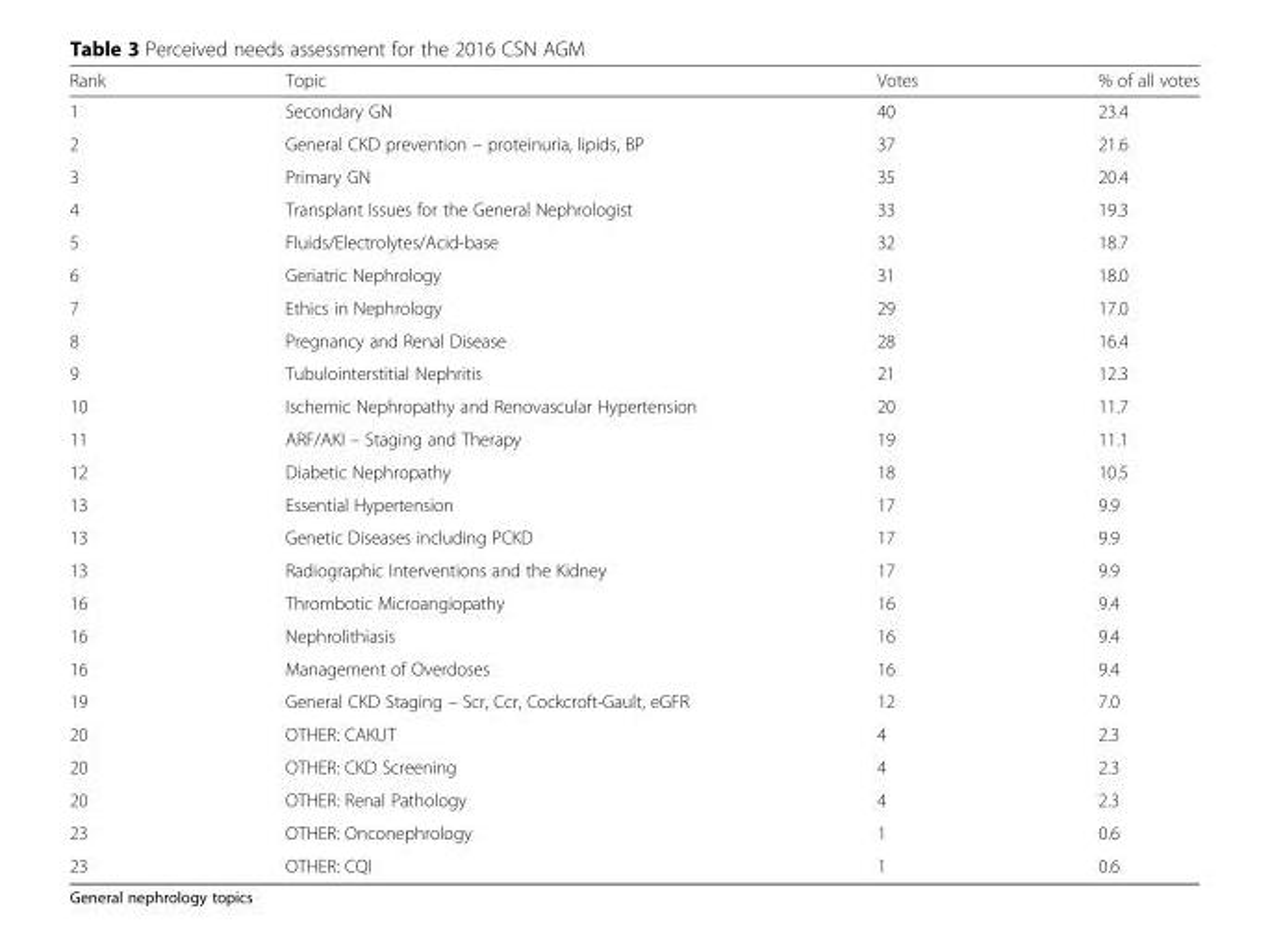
<table><thead><tr><td>Rank</td><td>Topic</td><td>Votes</td><td>% of all votes</td></tr></thead><tbody><tr><td>1</td><td>Secondary GN</td><td>40</td><td>23.4</td></tr><tr><td>2</td><td>General CKD prevention – proteinuria, lipids, BP</td><td>37</td><td>21.6</td></tr><tr><td>3</td><td>Primary GN</td><td>35</td><td>20.4</td></tr><tr><td>4</td><td>Transplant Issues for the General Nephrologist</td><td>33</td><td>19.3</td></tr><tr><td>5</td><td>Fluids/Electrolytes/Acid-base</td><td>32</td><td>18.7</td></tr><tr><td>6</td><td>Geriatric Nephrology</td><td>31</td><td>18.0</td></tr><tr><td>7</td><td>Ethics in Nephrology</td><td>29</td><td>17.0</td></tr><tr><td>8</td><td>Pregnancy and Renal Disease</td><td>28</td><td>16.4</td></tr><tr><td>9</td><td>Tubulointerstitial Nephritis</td><td>21</td><td>12.3</td></tr><tr><td>10</td><td>Ischemic Nephropathy and Renovascular Hypertension</td><td>20</td><td>11.7</td></tr><tr><td>11</td><td>ARF/AKI – Staging and Therapy</td><td>19</td><td>11.1</td></tr><tr><td>12</td><td>Diabetic Nephropathy</td><td>18</td><td>10.5</td></tr><tr><td>13</td><td>Essential Hypertension</td><td>17</td><td>9.9</td></tr><tr><td>13</td><td>Genetic Diseases including PCKD</td><td>17</td><td>9.9</td></tr><tr><td>13</td><td>Radiographic Interventions and the Kidney</td><td>17</td><td>9.9</td></tr><tr><td>16</td><td>Thrombotic Microangiopathy</td><td>16</td><td>9.4</td></tr><tr><td>16</td><td>Nephrolithiasis</td><td>16</td><td>9.4</td></tr><tr><td>16</td><td>Management of Overdoses</td><td>16</td><td>9.4</td></tr><tr><td>19</td><td>General CKD Staging – Scr, Ccr, Cockcroft-Gault, eGFR</td><td>12</td><td>7.0</td></tr><tr><td>20</td><td>OTHER: CAKUT</td><td>4</td><td>2.3</td></tr><tr><td>20</td><td>OTHER: CKD Screening</td><td>4</td><td>2.3</td></tr><tr><td>20</td><td>OTHER: Renal Pathology</td><td>4</td><td>2.3</td></tr><tr><td>23</td><td>OTHER: Onconephrology</td><td>1</td><td>0.6</td></tr><tr><td>23</td><td>OTHER: CQI</td><td>1</td><td>0.6</td></tr></tbody></table>